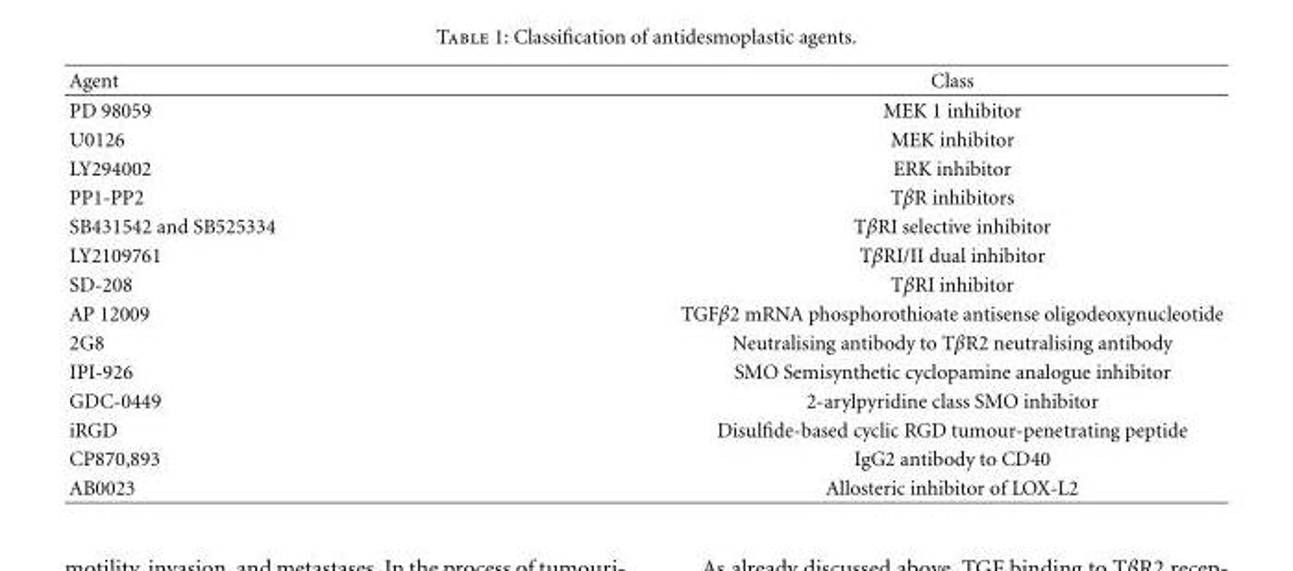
<table><thead><tr><td>Agent</td><td>Class</td></tr></thead><tbody><tr><td>PD 98059</td><td>MEK 1 inhibitor</td></tr><tr><td>U0126</td><td>MEK inhibitor</td></tr><tr><td>LY294002</td><td>ERK inhibitor</td></tr><tr><td>PP1-PP2</td><td>TβR inhibitors</td></tr><tr><td>SB431542 and SB525334</td><td>TβRI selective inhibitor</td></tr><tr><td>LY2109761</td><td>TβRI/II dual inhibitor</td></tr><tr><td>SD-208</td><td>TβRI inhibitor</td></tr><tr><td>AP 12009</td><td>TGFβ2 mRNA phosphorothioate antisense oligodeoxynucleotide</td></tr><tr><td>2G8</td><td>Neutralising antibody to TβR2 neutralising antibody</td></tr><tr><td>IPI-926</td><td>SMO Semisynthetic cyclopamine analogue inhibitor</td></tr><tr><td>GDC-0449</td><td>2-arylpyridine class SMO inhibitor</td></tr><tr><td>iRGD</td><td>Disulfide-based cyclic RGD tumour-penetrating peptide</td></tr><tr><td>CP870,893</td><td>IgG2 antibody to CD40</td></tr><tr><td>AB0023</td><td>Allosteric inhibitor of LOX-L2</td></tr></tbody></table>